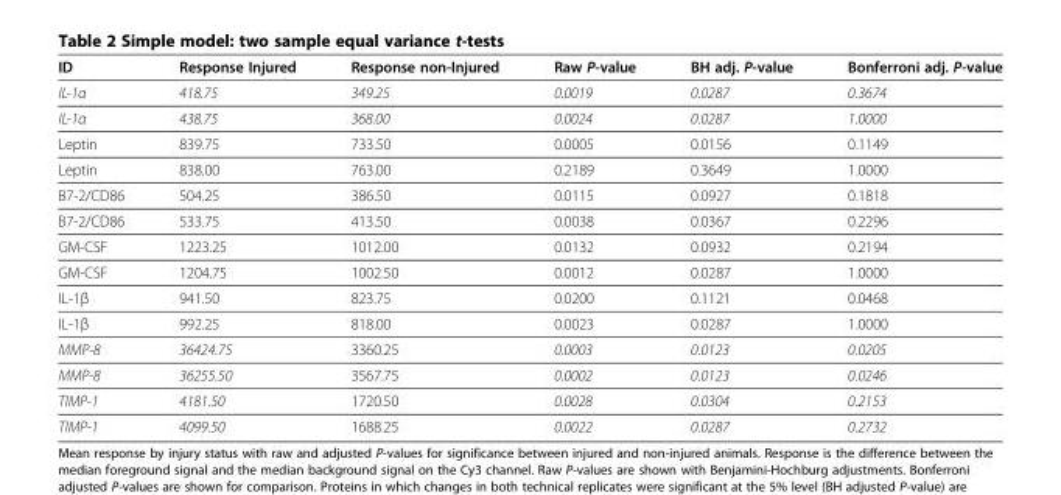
<table><thead><tr><td>ID</td><td>Response Injured</td><td>Response non-Injured</td><td>Raw P-value</td><td>BH adj. P-value</td><td>Bonferroni adj. P-value</td></tr></thead><tbody><tr><td>IL-1α</td><td>418.75</td><td>349.25</td><td>0.0019</td><td>0.0287</td><td>0.3674</td></tr><tr><td>IL-1α</td><td>438.75</td><td>368.00</td><td>0.0024</td><td>0.0287</td><td>1.0000</td></tr><tr><td>Leptin</td><td>839.75</td><td>733.50</td><td>0.0005</td><td>0.0156</td><td>0.1149</td></tr><tr><td>Leptin</td><td>838.00</td><td>763.00</td><td>0.2189</td><td>0.3649</td><td>1.0000</td></tr><tr><td>B7-2/CD86</td><td>504.25</td><td>386.50</td><td>0.0115</td><td>0.0927</td><td>0.1818</td></tr><tr><td>B7-2/CD86</td><td>533.75</td><td>413.50</td><td>0.0038</td><td>0.0367</td><td>0.2296</td></tr><tr><td>GM-CSF</td><td>1223.25</td><td>1012.00</td><td>0.0132</td><td>0.0932</td><td>0.2194</td></tr><tr><td>GM-CSF</td><td>1204.75</td><td>1002.50</td><td>0.0012</td><td>0.0287</td><td>1.0000</td></tr><tr><td>IL-1β</td><td>941.50</td><td>823.75</td><td>0.0200</td><td>0.1121</td><td>0.0468</td></tr><tr><td>IL-1β</td><td>992.25</td><td>818.00</td><td>0.0023</td><td>0.0287</td><td>1.0000</td></tr><tr><td>MMP-8</td><td>36424.75</td><td>3360.25</td><td>0.0003</td><td>0.0123</td><td>0.0205</td></tr><tr><td>MMP-8</td><td>36255.50</td><td>3567.75</td><td>0.0002</td><td>0.0123</td><td>0.0246</td></tr><tr><td>TIMP-1</td><td>4181.50</td><td>1720.50</td><td>0.0028</td><td>0.0304</td><td>0.2153</td></tr><tr><td>TIMP-1</td><td>4099.50</td><td>1688.25</td><td>0.0022</td><td>0.0287</td><td>0.2732</td></tr></tbody></table>